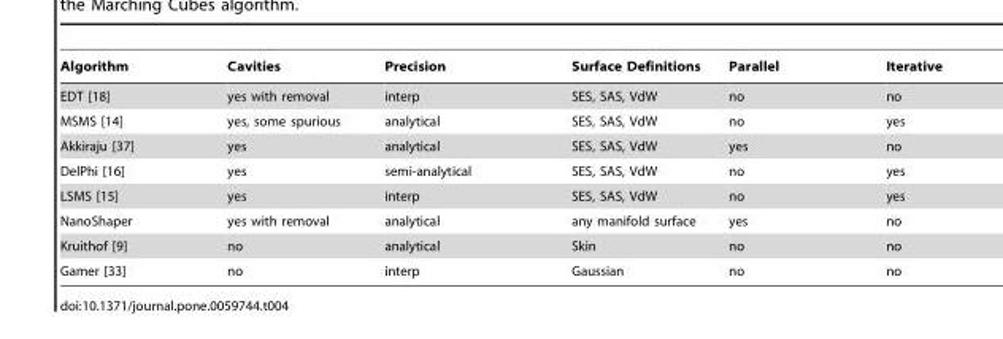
<table><thead><tr><td>Algorithm</td><td>Cavities</td><td>Precision</td><td>Surface Definitions</td><td>Parallel</td><td>Iterative</td></tr></thead><tbody><tr><td>EDT [18]</td><td>yes with removal</td><td>interp</td><td>SES, SAS, VdW</td><td>no</td><td>no</td></tr><tr><td>MSMS [14]</td><td>yes, some spurious</td><td>analytical</td><td>SES, SAS, VdW</td><td>no</td><td>yes</td></tr><tr><td>Akkiraju [37]</td><td>yes</td><td>analytical</td><td>SES, SAS, VdW</td><td>yes</td><td>no</td></tr><tr><td>DelPhi [16]</td><td>yes</td><td>semi-analytical</td><td>SES, SAS, VdW</td><td>no</td><td>yes</td></tr><tr><td>LSMS [15]</td><td>yes</td><td>interp</td><td>SES, SAS, VdW</td><td>no</td><td>yes</td></tr><tr><td>NanoShaper</td><td>yes with removal</td><td>analytical</td><td>any manifold surface</td><td>yes</td><td>no</td></tr><tr><td>Kruithof [9]</td><td>no</td><td>analytical</td><td>Skin</td><td>no</td><td>no</td></tr><tr><td>Gamer [33]</td><td>no</td><td>interp</td><td>Gaussian</td><td>no</td><td>no</td></tr></tbody></table>